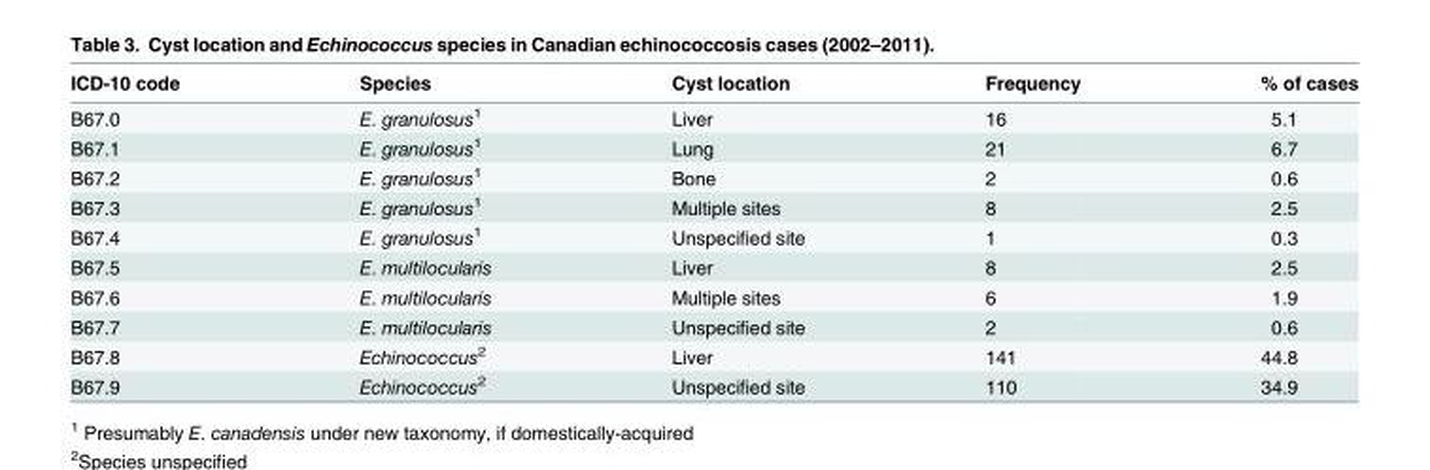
<table><thead><tr><td>ICD-10 code</td><td>Species</td><td>Cyst location</td><td>Frequency</td><td>% of cases</td></tr></thead><tbody><tr><td>B67.0</td><td>E. granulosus<sup>1</sup></td><td>Liver</td><td>16</td><td>5.1</td></tr><tr><td>B67.1</td><td>E. granulosus<sup>1</sup></td><td>Lung</td><td>21</td><td>6.7</td></tr><tr><td>B67.2</td><td>E. granulosus<sup>1</sup></td><td>Bone</td><td>2</td><td>0.6</td></tr><tr><td>B67.3</td><td>E. granulosus<sup>1</sup></td><td>Multiple sites</td><td>8</td><td>2.5</td></tr><tr><td>B67.4</td><td>E. granulosus<sup>1</sup></td><td>Unspecified site</td><td>1</td><td>0.3</td></tr><tr><td>B67.5</td><td>E. multilocularis</td><td>Liver</td><td>8</td><td>2.5</td></tr><tr><td>B67.6</td><td>E. multilocularis</td><td>Multiple sites</td><td>6</td><td>1.9</td></tr><tr><td>B67.7</td><td>E. multilocularis</td><td>Unspecified site</td><td>2</td><td>0.6</td></tr><tr><td>B67.8</td><td>Echinococcus<sup>2</sup></td><td>Liver</td><td>141</td><td>44.8</td></tr><tr><td>B67.9</td><td>Echinococcus<sup>2</sup></td><td>Unspecified site</td><td>110</td><td>34.9</td></tr></tbody></table>